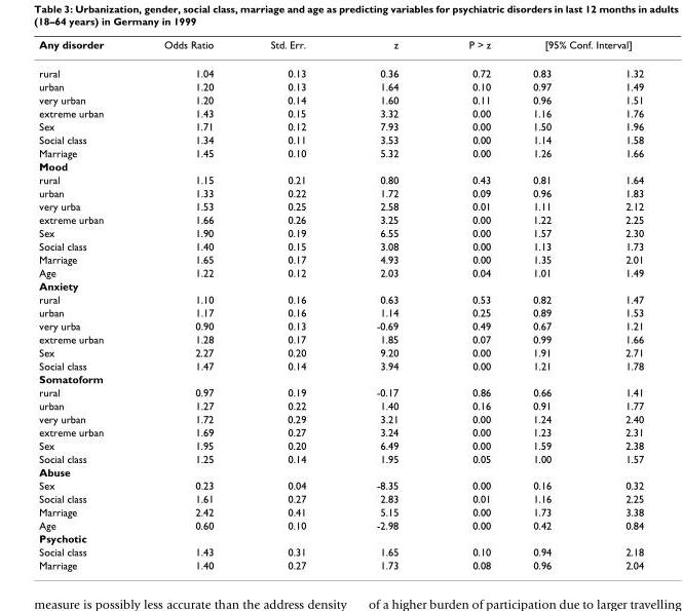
<table><thead><tr><td rowspan="2">Any disorder rural</td><td rowspan="2">Odds Ratio 1.04</td><td rowspan="2">Std. Err. 0.13</td><td rowspan="2">z 0.36</td><td rowspan="2">P &gt; z 0.72</td><td colspan="2">[95% Conf. Interval]</td></tr><tr><td>0.83</td><td>1.32</td></tr></thead><tbody><tr><td>urban</td><td>1.20</td><td>0.13</td><td>1.64</td><td>0.10</td><td>0.97</td><td>1.49</td></tr><tr><td>very urban</td><td>1.20</td><td>0.14</td><td>1.60</td><td>0.11</td><td>0.96</td><td>1.51</td></tr><tr><td>extreme urban</td><td>1.43</td><td>0.15</td><td>3.32</td><td>0.00</td><td>1.16</td><td>1.76</td></tr><tr><td>Sex</td><td>1.71</td><td>0.12</td><td>7.93</td><td>0.00</td><td>1.50</td><td>1.96</td></tr><tr><td>Social class</td><td>1.34</td><td>0.11</td><td>3.53</td><td>0.00</td><td>1.14</td><td>1.58</td></tr><tr><td>Marriage</td><td>1.45</td><td>0.10</td><td>5.32</td><td>0.00</td><td>1.26</td><td>1.66</td></tr><tr><td colspan="7">Mood</td></tr><tr><td>rural</td><td>1.15</td><td>0.21</td><td>0.80</td><td>0.43</td><td>0.81</td><td>1.64</td></tr><tr><td>urban</td><td>1.33</td><td>0.22</td><td>1.72</td><td>0.09</td><td>0.96</td><td>1.83</td></tr><tr><td>very urba</td><td>1.53</td><td>0.25</td><td>2.58</td><td>0.01</td><td>1.11</td><td>2.12</td></tr><tr><td>extreme urban</td><td>1.66</td><td>0.26</td><td>3.25</td><td>0.00</td><td>1.22</td><td>2.25</td></tr><tr><td>Sex</td><td>1.90</td><td>0.19</td><td>6.55</td><td>0.00</td><td>1.57</td><td>2.30</td></tr><tr><td>Social class</td><td>1.40</td><td>0.15</td><td>3.08</td><td>0.00</td><td>1.13</td><td>1.73</td></tr><tr><td>Marriage</td><td>1.65</td><td>0.17</td><td>4.93</td><td>0.00</td><td>1.35</td><td>2.01</td></tr><tr><td>Age</td><td>1.22</td><td>0.12</td><td>2.03</td><td>0.04</td><td>1.01</td><td>1.49</td></tr><tr><td colspan="7">Anxiety</td></tr><tr><td>rural</td><td>1.10</td><td>0.16</td><td>0.63</td><td>0.53</td><td>0.82</td><td>1.47</td></tr><tr><td>urban</td><td>1.17</td><td>0.16</td><td>1.14</td><td>0.25</td><td>0.89</td><td>1.53</td></tr><tr><td>very urba</td><td>0.90</td><td>0.13</td><td>-0.69</td><td>0.49</td><td>0.67</td><td>1.21</td></tr><tr><td>extreme urban</td><td>1.28</td><td>0.17</td><td>1.85</td><td>0.07</td><td>0.99</td><td>1.66</td></tr><tr><td>Sex</td><td>2.27</td><td>0.20</td><td>9.20</td><td>0.00</td><td>1.91</td><td>2.71</td></tr><tr><td>Social class</td><td>1.47</td><td>0.14</td><td>3.94</td><td>0.00</td><td>1.21</td><td>1.78</td></tr><tr><td colspan="7">Somatoform</td></tr><tr><td>rural</td><td>0.97</td><td>0.19</td><td>-0.17</td><td>0.86</td><td>0.66</td><td>1.41</td></tr><tr><td>urban</td><td>1.27</td><td>0.22</td><td>1.40</td><td>0.16</td><td>0.91</td><td>1.77</td></tr><tr><td>very urban</td><td>1.72</td><td>0.29</td><td>3.21</td><td>0.00</td><td>1.24</td><td>2.40</td></tr><tr><td>extreme urban</td><td>1.69</td><td>0.27</td><td>3.24</td><td>0.00</td><td>1.23</td><td>2.31</td></tr><tr><td>Sex</td><td>1.95</td><td>0.20</td><td>6.49</td><td>0.00</td><td>1.59</td><td>2.38</td></tr><tr><td>Social class</td><td>1.25</td><td>0.14</td><td>1.95</td><td>0.05</td><td>1.00</td><td>1.57</td></tr><tr><td colspan="7">Abuse</td></tr><tr><td>Sex</td><td>0.23</td><td>0.04</td><td>-8.35</td><td>0.00</td><td>0.16</td><td>0.32</td></tr><tr><td>Social class</td><td>1.61</td><td>0.27</td><td>2.83</td><td>0.01</td><td>1.16</td><td>2.25</td></tr><tr><td>Marriage</td><td>2.42</td><td>0.41</td><td>5.15</td><td>0.00</td><td>1.73</td><td>3.38</td></tr><tr><td>Age</td><td>0.60</td><td>0.10</td><td>-2.98</td><td>0.00</td><td>0.42</td><td>0.84</td></tr><tr><td colspan="7">Psychotic</td></tr><tr><td>Social class</td><td>1.43</td><td>0.31</td><td>1.65</td><td>0.10</td><td>0.94</td><td>2.18</td></tr><tr><td>Marriage</td><td>1.40</td><td>0.27</td><td>1.73</td><td>0.08</td><td>0.96</td><td>2.04</td></tr></tbody></table>